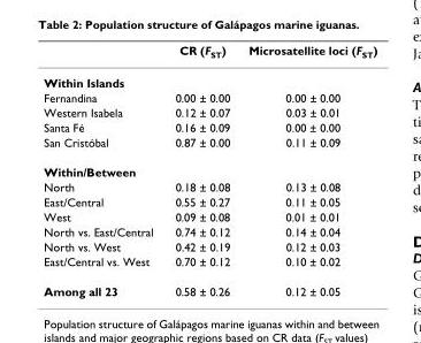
<table><thead><tr><td></td><td>CR (F<sub>ST</sub>)</td><td>Microsatellite loci (F<sub>ST</sub>)</td></tr></thead><tbody><tr><td colspan="3">Within Islands</td></tr><tr><td>Fernandina</td><td>0.00 ± 0.00</td><td>0.00 ± 0.00</td></tr><tr><td>Western Isabela</td><td>0.12 ± 0.07</td><td>0.03 ± 0.01</td></tr><tr><td>Santa Fé</td><td>0.16 ± 0.09</td><td>0.00 ± 0.00</td></tr><tr><td>San Cristóbal</td><td>0.87 ± 0.00</td><td>0.11 ± 0.09</td></tr><tr><td colspan="3">Within/Between</td></tr><tr><td>North</td><td>0.18 ± 0.08</td><td>0.13 ± 0.08</td></tr><tr><td>East/Central</td><td>0.55 ± 0.27</td><td>0.11 ± 0.05</td></tr><tr><td>West</td><td>0.09 ± 0.08</td><td>0.01 ± 0.01</td></tr><tr><td>North vs. East/Central</td><td>0.74 ± 0.12</td><td>0.14 ± 0.04</td></tr><tr><td>North vs. West</td><td>0.42 ± 0.19</td><td>0.12 ± 0.03</td></tr><tr><td>East/Central vs. West</td><td>0.70 ± 0.12</td><td>0.10 ± 0.02</td></tr><tr><td>Among all 23</td><td>0.58 ± 0.26</td><td>0.12 ± 0.05</td></tr></tbody></table>